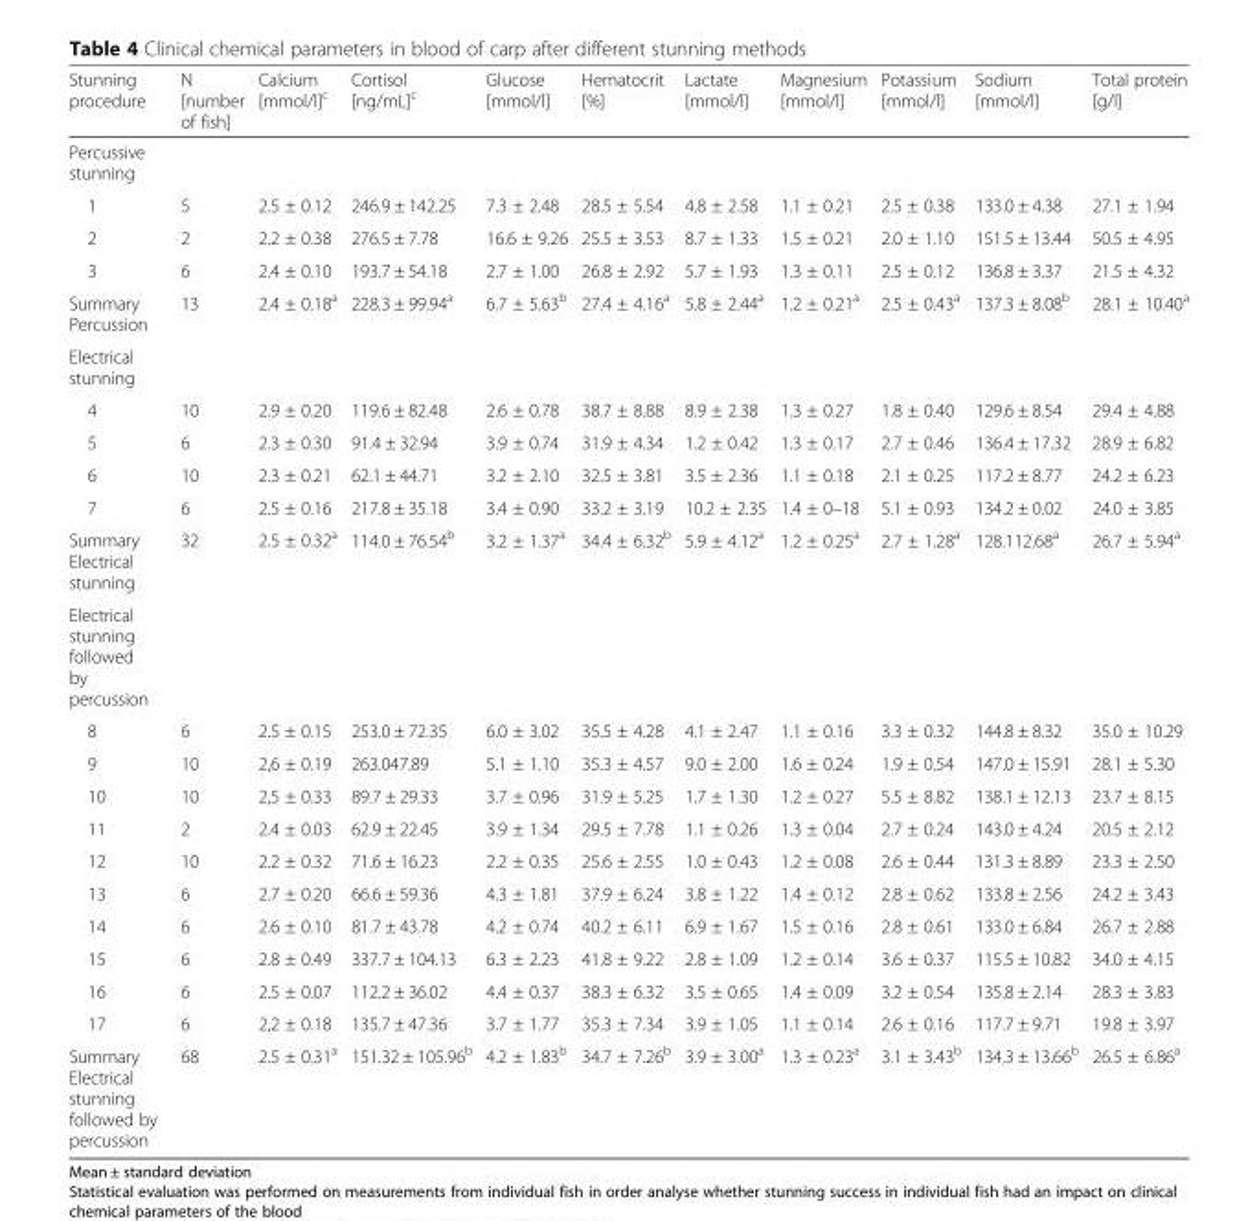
<table><thead><tr><td>Stunning procedure</td><td>N [number of fish]</td><td>Calcium [mmol/l]<sup>c</sup></td><td>Cortisol [ng/mL]<sup>c</sup></td><td>Glucose [mmol/l]</td><td>Hematocrit [%]</td><td>Lactate [mmol/l]</td><td>Magnesium [mmol/l]</td><td>Potassium [mmol/l]</td><td>Sodium [mmol/l]</td><td>Total protein [g/l]</td></tr></thead><tbody><tr><td colspan="11">Percussive stunning</td></tr><tr><td>1</td><td>5</td><td>2.5 ± 0.12</td><td>246.9 ± 142.25</td><td>7.3 ± 2.48</td><td>28.5 ± 5.54</td><td>4.8 ± 2.58</td><td>1.1 ± 0.21</td><td>2.5 ± 0.38</td><td>133.0 ± 4.38</td><td>27.1 ± 1.94</td></tr><tr><td>2</td><td>2</td><td>2.2 ± 0.38</td><td>276.5 ± 7.78</td><td>16.6 ± 9.26</td><td>25.5 ± 3.53</td><td>8.7 ± 1.33</td><td>1.5 ± 0.21</td><td>2.0 ± 1.10</td><td>151.5 ± 13.44</td><td>50.5 ± 4.95</td></tr><tr><td>3</td><td>6</td><td>2.4 ± 0.10</td><td>193.7 ± 54.18</td><td>2.7 ± 1.00</td><td>26.8 ± 2.92</td><td>5.7 ± 1.93</td><td>1.3 ± 0.11</td><td>2.5 ± 0.12</td><td>136.8 ± 3.37</td><td>21.5 ± 4.32</td></tr><tr><td>Summary Percussion</td><td>13</td><td>2.4 ± 0.18<sup>a</sup></td><td>228.3 ± 99.94<sup>a</sup></td><td>6.7 ± 5.63<sup>b</sup></td><td>27.4 ± 4.16<sup>a</sup></td><td>5.8 ± 2.44<sup>a</sup></td><td>1.2 ± 0.21<sup>a</sup></td><td>2.5 ± 0.43<sup>a</sup></td><td>137.3 ± 8.08<sup>b</sup></td><td>28.1 ± 10.40<sup>a</sup></td></tr><tr><td colspan="11">Electrical stunning</td></tr><tr><td>4</td><td>10</td><td>2.9 ± 0.20</td><td>119.6 ± 82.48</td><td>2.6 ± 0.78</td><td>38.7 ± 8.88</td><td>8.9 ± 2.38</td><td>1.3 ± 0.27</td><td>1.8 ± 0.40</td><td>129.6 ± 8.54</td><td>29.4 ± 4.88</td></tr><tr><td>5</td><td>6</td><td>2.3 ± 0.30</td><td>91.4 ± 32.94</td><td>3.9 ± 0.74</td><td>31.9 ± 4.34</td><td>1.2 ± 0.42</td><td>1.3 ± 0.17</td><td>2.7 ± 0.46</td><td>136.4 ± 17.32</td><td>28.9 ± 6.82</td></tr><tr><td>6</td><td>10</td><td>2.3 ± 0.21</td><td>62.1 ± 44.71</td><td>3.2 ± 2.10</td><td>32.5 ± 3.81</td><td>3.5 ± 2.36</td><td>1.1 ± 0.18</td><td>2.1 ± 0.25</td><td>117.2 ± 8.77</td><td>24.2 ± 6.23</td></tr><tr><td>7</td><td>6</td><td>2.5 ± 0.16</td><td>217.8 ± 35.18</td><td>3.4 ± 0.90</td><td>33.2 ± 3.19</td><td>10.2 ± 2.35</td><td>1.4 ± 0–18</td><td>5.1 ± 0.93</td><td>134.2 ± 0.02</td><td>24.0 ± 3.85</td></tr><tr><td>Summary Electrical stunning</td><td>32</td><td>2.5 ± 0.32<sup>a</sup></td><td>114.0 ± 76.54<sup>b</sup></td><td>3.2 ± 1.37<sup>a</sup></td><td>34.4 ± 6.32<sup>b</sup></td><td>5.9 ± 4.12<sup>a</sup></td><td>1.2 ± 0.25<sup>a</sup></td><td>2.7 ± 1.28<sup>a</sup></td><td>128.112.68<sup>a</sup></td><td>26.7 ± 5.94<sup>a</sup></td></tr><tr><td colspan="11">Electrical stunning followed by percussion</td></tr><tr><td>8</td><td>6</td><td>2.5 ± 0.15</td><td>253.0 ± 72.35</td><td>6.0 ± 3.02</td><td>35.5 ± 4.28</td><td>4.1 ± 2.47</td><td>1.1 ± 0.16</td><td>3.3 ± 0.32</td><td>144.8 ± 8.32</td><td>35.0 ± 10.29</td></tr><tr><td>9</td><td>10</td><td>2,6 ± 0.19</td><td>263.047.89</td><td>5.1 ± 1.10</td><td>35.3 ± 4.57</td><td>9.0 ± 2.00</td><td>1.6 ± 0.24</td><td>1.9 ± 0.54</td><td>147.0 ± 15.91</td><td>28.1 ± 5.30</td></tr><tr><td>10</td><td>10</td><td>2,5 ± 0.33</td><td>89.7 ± 29.33</td><td>3.7 ± 0.96</td><td>31.9 ± 5.25</td><td>1.7 ± 1.30</td><td>1.2 ± 0.27</td><td>5.5 ± 8.82</td><td>138.1 ± 12.13</td><td>23.7 ± 8.15</td></tr><tr><td>11</td><td>2</td><td>2.4 ± 0.03</td><td>62.9 ± 22.45</td><td>3.9 ± 1.34</td><td>29.5 ± 7.78</td><td>1.1 ± 0.26</td><td>1.3 ± 0.04</td><td>2.7 ± 0.24</td><td>143.0 ± 4.24</td><td>20.5 ± 2.12</td></tr><tr><td>12</td><td>10</td><td>2.2 ± 0.32</td><td>71.6 ± 16.23</td><td>2.2 ± 0.35</td><td>25.6 ± 2.55</td><td>1.0 ± 0.43</td><td>1.2 ± 0.08</td><td>2.6 ± 0.44</td><td>131.3 ± 8.89</td><td>23.3 ± 2.50</td></tr><tr><td>13</td><td>6</td><td>2.7 ± 0.20</td><td>66.6 ± 59.36</td><td>4.3 ± 1.81</td><td>37.9 ± 6.24</td><td>3.8 ± 1.22</td><td>1.4 ± 0.12</td><td>2.8 ± 0.62</td><td>133.8 ± 2.56</td><td>24.2 ± 3.43</td></tr><tr><td>14</td><td>6</td><td>2.6 ± 0.10</td><td>81.7 ± 43.78</td><td>4.2 ± 0.74</td><td>40.2 ± 6.11</td><td>6.9 ± 1.67</td><td>1.5 ± 0.16</td><td>2.8 ± 0.61</td><td>133.0 ± 6.84</td><td>26.7 ± 2.88</td></tr><tr><td>15</td><td>6</td><td>2.8 ± 0.49</td><td>337.7 ± 104.13</td><td>6.3 ± 2.23</td><td>41.8 ± 9.22</td><td>2.8 ± 1.09</td><td>1.2 ± 0.14</td><td>3.6 ± 0.37</td><td>115.5 ± 10.82</td><td>34.0 ± 4.15</td></tr><tr><td>16</td><td>6</td><td>2.5 ± 0.07</td><td>112.2 ± 36.02</td><td>4.4 ± 0.37</td><td>38.3 ± 6.32</td><td>3.5 ± 0.65</td><td>1.4 ± 0.09</td><td>3.2 ± 0.54</td><td>135.8 ± 2.14</td><td>28.3 ± 3.83</td></tr><tr><td>17</td><td>6</td><td>2,2 ± 0.18</td><td>135.7 ± 47.36</td><td>3.7 ± 1.77</td><td>35.3 ± 7.34</td><td>3.9 ± 1.05</td><td>1.1 ± 0.14</td><td>2.6 ± 0.16</td><td>117.7 ± 9.71</td><td>19.8 ± 3.97</td></tr><tr><td>Summary Electrical stunning followed by percussion</td><td>68</td><td>2.5 ± 0.31<sup>a</sup></td><td>151.32 ± 105.96<sup>b</sup></td><td>4.2 ± 1.83<sup>b</sup></td><td>34.7 ± 7.26<sup>b</sup></td><td>3.9 ± 3.00<sup>a</sup></td><td>1.3 ± 0.23<sup>a</sup></td><td>3.1 ± 3.43<sup>b</sup></td><td>134.3 ± 13.66<sup>b</sup></td><td>26.5 ± 6.86<sup>a</sup></td></tr></tbody></table>